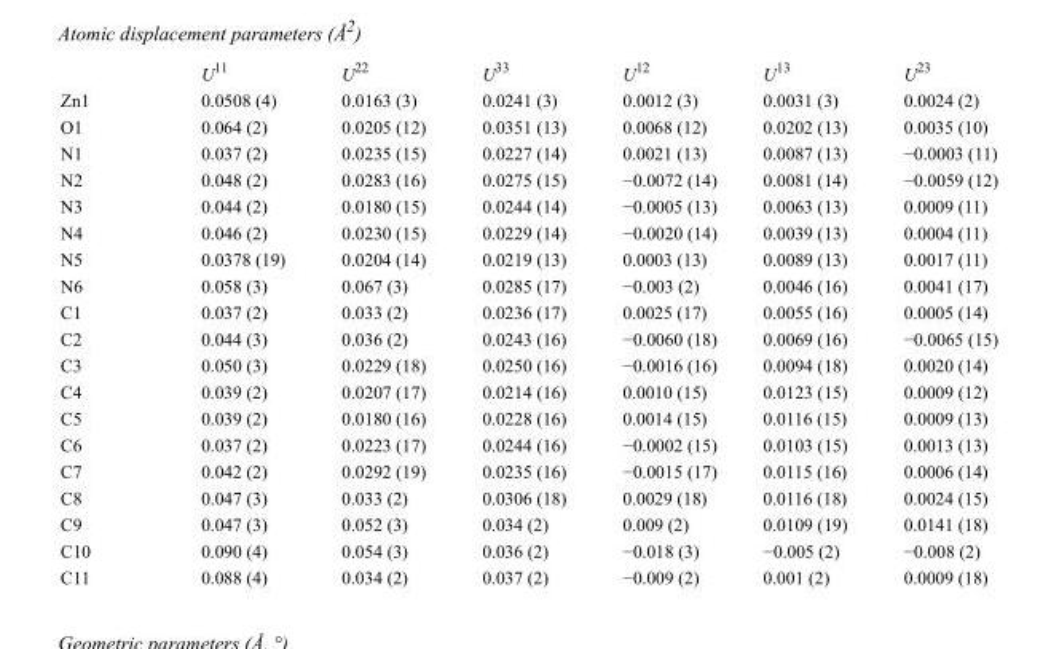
<table><thead><tr><td></td><td>U<sup>11</sup></td><td>U<sup>22</sup></td><td>U<sup>33</sup></td><td>U<sup>12</sup></td><td>U<sup>13</sup></td><td>U<sup>23</sup></td></tr></thead><tbody><tr><td>Zn1</td><td>0.0508 (4)</td><td>0.0163 (3)</td><td>0.0241 (3)</td><td>0.0012 (3)</td><td>0.0031 (3)</td><td>0.0024 (2)</td></tr><tr><td>O1</td><td>0.064 (2)</td><td>0.0205 (12)</td><td>0.0351 (13)</td><td>0.0068 (12)</td><td>0.0202 (13)</td><td>0.0035 (10)</td></tr><tr><td>N1</td><td>0.037 (2)</td><td>0.0235 (15)</td><td>0.0227 (14)</td><td>0.0021 (13)</td><td>0.0087 (13)</td><td>−0.0003 (11)</td></tr><tr><td>N2</td><td>0.048 (2)</td><td>0.0283 (16)</td><td>0.0275 (15)</td><td>−0.0072 (14)</td><td>0.0081 (14)</td><td>−0.0059 (12)</td></tr><tr><td>N3</td><td>0.044 (2)</td><td>0.0180 (15)</td><td>0.0244 (14)</td><td>−0.0005 (13)</td><td>0.0063 (13)</td><td>0.0009 (11)</td></tr><tr><td>N4</td><td>0.046 (2)</td><td>0.0230 (15)</td><td>0.0229 (14)</td><td>−0.0020 (14)</td><td>0.0039 (13)</td><td>0.0004 (11)</td></tr><tr><td>N5</td><td>0.0378 (19)</td><td>0.0204 (14)</td><td>0.0219 (13)</td><td>0.0003 (13)</td><td>0.0089 (13)</td><td>0.0017 (11)</td></tr><tr><td>N6</td><td>0.058 (3)</td><td>0.067 (3)</td><td>0.0285 (17)</td><td>−0.003 (2)</td><td>0.0046 (16)</td><td>0.0041 (17)</td></tr><tr><td>C1</td><td>0.037 (2)</td><td>0.033 (2)</td><td>0.0236 (17)</td><td>0.0025 (17)</td><td>0.0055 (16)</td><td>0.0005 (14)</td></tr><tr><td>C2</td><td>0.044 (3)</td><td>0.036 (2)</td><td>0.0243 (16)</td><td>−0.0060 (18)</td><td>0.0069 (16)</td><td>−0.0065 (15)</td></tr><tr><td>C3</td><td>0.050 (3)</td><td>0.0229 (18)</td><td>0.0250 (16)</td><td>−0.0016 (16)</td><td>0.0094 (18)</td><td>0.0020 (14)</td></tr><tr><td>C4</td><td>0.039 (2)</td><td>0.0207 (17)</td><td>0.0214 (16)</td><td>0.0010 (15)</td><td>0.0123 (15)</td><td>0.0009 (12)</td></tr><tr><td>C5</td><td>0.039 (2)</td><td>0.0180 (16)</td><td>0.0228 (16)</td><td>0.0014 (15)</td><td>0.0116 (15)</td><td>0.0009 (13)</td></tr><tr><td>C6</td><td>0.037 (2)</td><td>0.0223 (17)</td><td>0.0244 (16)</td><td>−0.0002 (15)</td><td>0.0103 (15)</td><td>0.0013 (13)</td></tr><tr><td>C7</td><td>0.042 (2)</td><td>0.0292 (19)</td><td>0.0235 (16)</td><td>−0.0015 (17)</td><td>0.0115 (16)</td><td>0.0006 (14)</td></tr><tr><td>C8</td><td>0.047 (3)</td><td>0.033 (2)</td><td>0.0306 (18)</td><td>0.0029 (18)</td><td>0.0116 (18)</td><td>0.0024 (15)</td></tr><tr><td>C9</td><td>0.047 (3)</td><td>0.052 (3)</td><td>0.034 (2)</td><td>0.009 (2)</td><td>0.0109 (19)</td><td>0.0141 (18)</td></tr><tr><td>C10</td><td>0.090 (4)</td><td>0.054 (3)</td><td>0.036 (2)</td><td>−0.018 (3)</td><td>−0.005 (2)</td><td>−0.008 (2)</td></tr><tr><td>C11</td><td>0.088 (4)</td><td>0.034 (2)</td><td>0.037 (2)</td><td>−0.009 (2)</td><td>0.001 (2)</td><td>0.0009 (18)</td></tr></tbody></table>